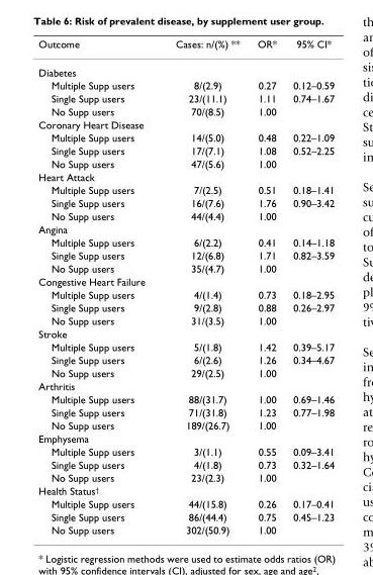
<table><thead><tr><td>Outcome</td><td>Cases: n/(%) **</td><td>OR*</td><td>95% CI*</td></tr></thead><tbody><tr><td colspan="4">Diabetes</td></tr><tr><td>Multiple Supp users</td><td>8/(2.9)</td><td>0.27</td><td>0.12–0.59</td></tr><tr><td>Single Supp users</td><td>23/(11.1)</td><td>1.11</td><td>0.74–1.67</td></tr><tr><td>No Supp users</td><td>70/(8.5)</td><td>1.00</td><td></td></tr><tr><td colspan="4">Coronary Heart Disease</td></tr><tr><td>Multiple Supp users</td><td>14/(5.0)</td><td>0.48</td><td>0.22–1.09</td></tr><tr><td>Single Supp users</td><td>17/(7.1)</td><td>1.08</td><td>0.52–2.25</td></tr><tr><td>No Supp users</td><td>47/(5.6)</td><td>1.00</td><td></td></tr><tr><td colspan="4">Heart Attack</td></tr><tr><td>Multiple Supp users</td><td>7/(2.5)</td><td>0.51</td><td>0.18–1.41</td></tr><tr><td>Single Supp users</td><td>16/(7.6)</td><td>1.76</td><td>0.90–3.42</td></tr><tr><td>No Supp users</td><td>44/(4.4)</td><td>1.00</td><td></td></tr><tr><td colspan="4">Angina</td></tr><tr><td>Multiple Supp users</td><td>6/(2.2)</td><td>0.41</td><td>0.14–1.18</td></tr><tr><td>Single Supp users</td><td>12/(6.8)</td><td>1.71</td><td>0.82–3.59</td></tr><tr><td>No Supp users</td><td>35/(4.7)</td><td>1.00</td><td></td></tr><tr><td colspan="4">Congestive Heart Failure</td></tr><tr><td>Multiple Supp users</td><td>4/(1.4)</td><td>0.73</td><td>0.18–2.95</td></tr><tr><td>Single Supp users</td><td>9/(2.8)</td><td>0.88</td><td>0.26–2.97</td></tr><tr><td>No Supp users</td><td>31/(3.5)</td><td>1.00</td><td></td></tr><tr><td colspan="4">Stroke</td></tr><tr><td>Multiple Supp users</td><td>5/(1.8)</td><td>1.42</td><td>0.39–5.17</td></tr><tr><td>Single Supp users</td><td>6/(2.6)</td><td>1.26</td><td>0.34–4.67</td></tr><tr><td>No Supp users</td><td>29/(2.5)</td><td>1.00</td><td></td></tr><tr><td colspan="4">Arthritis</td></tr><tr><td>Multiple Supp users</td><td>88/(31.7)</td><td>1.00</td><td>0.69–1.46</td></tr><tr><td>Single Supp users</td><td>71/(31.8)</td><td>1.23</td><td>0.77–1.98</td></tr><tr><td>No Supp users</td><td>189/(26.7)</td><td>1.00</td><td></td></tr><tr><td colspan="4">Emphysema</td></tr><tr><td>Multiple Supp users</td><td>3/(1.1)</td><td>0.55</td><td>0.09–3.41</td></tr><tr><td>Single Supp users</td><td>4/(1.8)</td><td>0.73</td><td>0.32–1.64</td></tr><tr><td>No Supp users</td><td>23/(2.3)</td><td>1.00</td><td></td></tr><tr><td colspan="4">Health Status<sup>†</sup></td></tr><tr><td>Multiple Supp users</td><td>44/(15.8)</td><td>0.26</td><td>0.17–0.41</td></tr><tr><td>Single Supp users</td><td>86/(44.4)</td><td>0.75</td><td>0.45–1.23</td></tr><tr><td>No Supp users</td><td>302/(50.9)</td><td>1.00</td><td></td></tr></tbody></table>